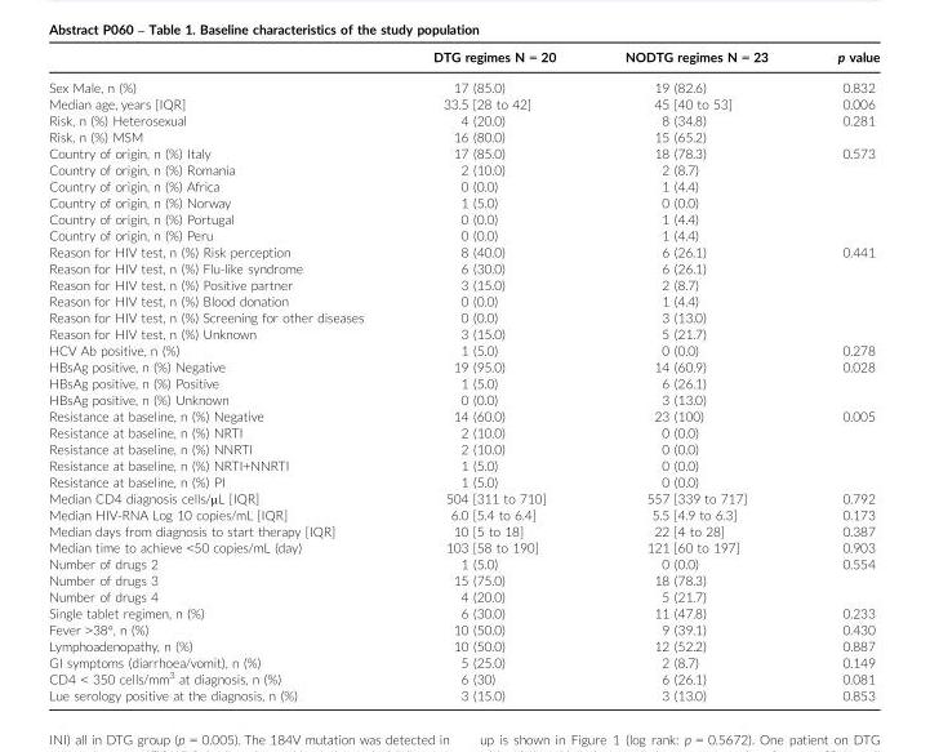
<table><thead><tr><td></td><td>DTG regimes N = 20</td><td>NODTG regimes N = 23</td><td>p value</td></tr></thead><tbody><tr><td>Sex Male, n (%)</td><td>17 (85.0)</td><td>19 (82.6)</td><td>0.832</td></tr><tr><td>Median age, years [IQR]</td><td>33.5 [28 to 42]</td><td>45 [40 to 53]</td><td>0.006</td></tr><tr><td>Risk, n (%) Heterosexual</td><td>4 (20.0)</td><td>8 (34.8)</td><td>0.281</td></tr><tr><td>Risk, n (%) MSM</td><td>16 (80.0)</td><td>15 (65.2)</td><td></td></tr><tr><td>Country of origin, n (%) Italy</td><td>17 (85.0)</td><td>18 (78.3)</td><td>0.573</td></tr><tr><td>Country of origin, n (%) Romania</td><td>2 (10.0)</td><td>2 (8.7)</td><td></td></tr><tr><td>Country of origin, n (%) Africa</td><td>0 (0.0)</td><td>1 (4.4)</td><td></td></tr><tr><td>Country of origin, n (%) Norway</td><td>1 (5.0)</td><td>0 (0.0)</td><td></td></tr><tr><td>Country of origin, n (%) Portugal</td><td>0 (0.0)</td><td>1 (4.4)</td><td></td></tr><tr><td>Country of origin, n (%) Peru</td><td>0 (0.0)</td><td>1 (4.4)</td><td></td></tr><tr><td>Reason for HIV test, n (%) Risk perception</td><td>8 (40.0)</td><td>6 (26.1)</td><td>0.441</td></tr><tr><td>Reason for HIV test, n (%) Flu-like syndrome</td><td>6 (30.0)</td><td>6 (26.1)</td><td></td></tr><tr><td>Reason for HIV test, n (%) Positive partner</td><td>3 (15.0)</td><td>2 (8.7)</td><td></td></tr><tr><td>Reason for HIV test, n (%) Blood donation</td><td>0 (0.0)</td><td>1 (4.4)</td><td></td></tr><tr><td>Reason for HIV test, n (%) Screening for other diseases</td><td>0 (0.0)</td><td>3 (13.0)</td><td></td></tr><tr><td>Reason for HIV test, n (%) Unknown</td><td>3 (15.0)</td><td>5 (21.7)</td><td></td></tr><tr><td>HCV Ab positive, n (%)</td><td>1 (5.0)</td><td>0 (0.0)</td><td>0.278</td></tr><tr><td>HBsAg positive, n (%) Negative</td><td>19 (95.0)</td><td>14 (60.9)</td><td>0.028</td></tr><tr><td>HBsAg positive, n (%) Positive</td><td>1 (5.0)</td><td>6 (26.1)</td><td></td></tr><tr><td>HBsAg positive, n (%) Unknown</td><td>0 (0.0)</td><td>3 (13.0)</td><td></td></tr><tr><td>Resistance at baseline, n (%) Negative</td><td>14 (60.0)</td><td>23 (100)</td><td>0.005</td></tr><tr><td>Resistance at baseline, n (%) NRTI</td><td>2 (10.0)</td><td>0 (0.0)</td><td></td></tr><tr><td>Resistance at baseline, n (%) NNRTI</td><td>2 (10.0)</td><td>0 (0.0)</td><td></td></tr><tr><td>Resistance at baseline, n (%) NRTI+NNRTI</td><td>1 (5.0)</td><td>0 (0.0)</td><td></td></tr><tr><td>Resistance at baseline, n (%) PI</td><td>1 (5.0)</td><td>0 (0.0)</td><td></td></tr><tr><td>Median CD4 diagnosis cells/μL [IQR]</td><td>504 [311 to 710]</td><td>557 [339 to 717]</td><td>0.792</td></tr><tr><td>Median HIV-RNA Log 10 copies/mL [IQR]</td><td>6.0 [5.4 to 6.4]</td><td>5.5 [4.9 to 6.3]</td><td>0.173</td></tr><tr><td>Median days from diagnosis to start therapy [IQR]</td><td>10 [5 to 18]</td><td>22 [4 to 28]</td><td>0.387</td></tr><tr><td>Median time to achieve &lt;50 copies/mL (day)</td><td>103 [58 to 190]</td><td>121 [60 to 197]</td><td>0.903</td></tr><tr><td>Number of drugs 2</td><td>1 (5.0)</td><td>0 (0.0)</td><td>0.554</td></tr><tr><td>Number of drugs 3</td><td>15 (75.0)</td><td>18 (78.3)</td><td></td></tr><tr><td>Number of drugs 4</td><td>4 (20.0)</td><td>5 (21.7)</td><td></td></tr><tr><td>Single tablet regimen, n (%)</td><td>6 (30.0)</td><td>11 (47.8)</td><td>0.233</td></tr><tr><td>Fever &gt;38°, n (%)</td><td>10 (50.0)</td><td>9 (39.1)</td><td>0.430</td></tr><tr><td>Lymphoadenopathy, n (%)</td><td>10 (50.0)</td><td>12 (52.2)</td><td>0.887</td></tr><tr><td>GI symptoms (diarrhoea/vomit), n (%)</td><td>5 (25.0)</td><td>2 (8.7)</td><td>0.149</td></tr><tr><td>CD4 &lt; 350 cells/mm<sup>3</sup> at diagnosis, n (%)</td><td>6 (30)</td><td>6 (26.1)</td><td>0.081</td></tr><tr><td>Lue serology positive at the diagnosis, n (%)</td><td>3 (15.0)</td><td>3 (13.0)</td><td>0.853</td></tr></tbody></table>